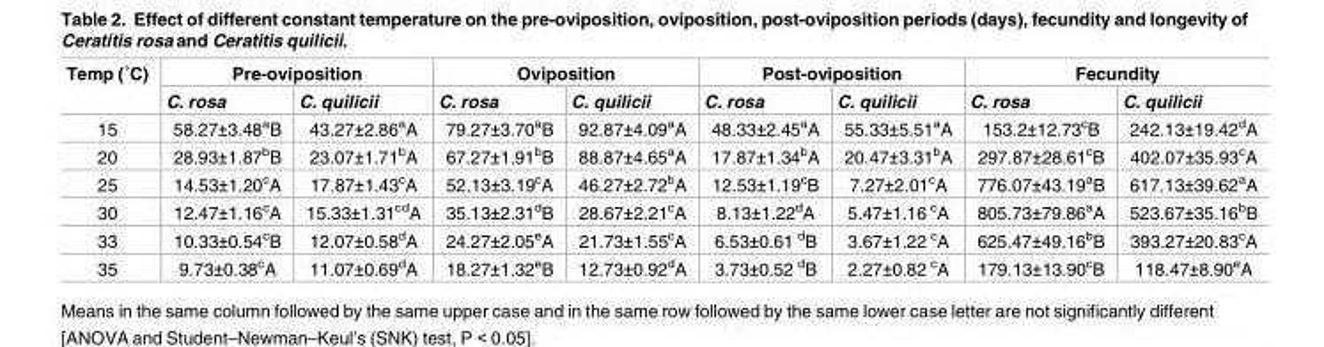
<table><thead><tr><td rowspan="2">Temp (˚C)</td><td colspan="2">Pre-oviposition</td><td colspan="2">Oviposition</td><td colspan="2">Post-oviposition</td><td colspan="2">Fecundity</td></tr><tr><td>C. rosa</td><td>C. quilicii</td><td>C. rosa</td><td>C. quilicii</td><td>C. rosa</td><td>C. quilicii</td><td>C. rosa</td><td>C. quilicii</td></tr></thead><tbody><tr><td>15</td><td>58.27±3.48<sup>a</sup>B</td><td>43.27±2.86<sup>a</sup>A</td><td>79.27±3.70<sup>a</sup>B</td><td>92.87±4.09<sup>a</sup>A</td><td>48.33±2.45<sup>a</sup>A</td><td>55.33±5.51<sup>a</sup>A</td><td>153.2±12.73<sup>c</sup>B</td><td>242.13±19.42<sup>d</sup>A</td></tr><tr><td>20</td><td>28.93±1.87<sup>b</sup>B</td><td>23.07±1.71<sup>b</sup>A</td><td>67.27±1.91<sup>b</sup>B</td><td>88.87±4.65<sup>a</sup>A</td><td>17.87±1.34<sup>b</sup>A</td><td>20.47±3.31<sup>b</sup>A</td><td>297.87±28.61<sup>c</sup>B</td><td>402.07±35.93<sup>c</sup>A</td></tr><tr><td>25</td><td>14.53±1.20<sup>c</sup>A</td><td>17.87±1.43<sup>c</sup>A</td><td>52.13±3.19<sup>c</sup>A</td><td>46.27±2.72<sup>b</sup>A</td><td>12.53±1.19<sup>c</sup>B</td><td>7.27±2.01<sup>c</sup>A</td><td>776.07±43.19<sup>a</sup>B</td><td>617.13±39.62<sup>a</sup>A</td></tr><tr><td>30</td><td>12.47±1.16<sup>c</sup>A</td><td>15.33±1.31<sup>cd</sup>A</td><td>35.13±2.31<sup>d</sup>B</td><td>28.67±2.21<sup>c</sup>A</td><td>8.13±1.22<sup>d</sup>A</td><td>5.47±1.16 <sup>c</sup>A</td><td>805.73±79.86<sup>a</sup>A</td><td>523.67±35.16<sup>b</sup>B</td></tr><tr><td>33</td><td>10.33±0.54<sup>c</sup>B</td><td>12.07±0.58<sup>d</sup>A</td><td>24.27±2.05<sup>e</sup>A</td><td>21.73±1.55<sup>c</sup>A</td><td>6.53±0.61 <sup>d</sup>B</td><td>3.67±1.22 <sup>c</sup>A</td><td>625.47±49.16<sup>b</sup>B</td><td>393.27±20.83<sup>c</sup>A</td></tr><tr><td>35</td><td>9.73±0.38<sup>c</sup>A</td><td>11.07±0.69<sup>d</sup>A</td><td>18.27±1.32<sup>e</sup>B</td><td>12.73±0.92<sup>d</sup>A</td><td>3.73±0.52 <sup>d</sup>B</td><td>2.27±0.82 <sup>c</sup>A</td><td>179.13±13.90<sup>c</sup>B</td><td>118.47±8.90<sup>e</sup>A</td></tr></tbody></table>